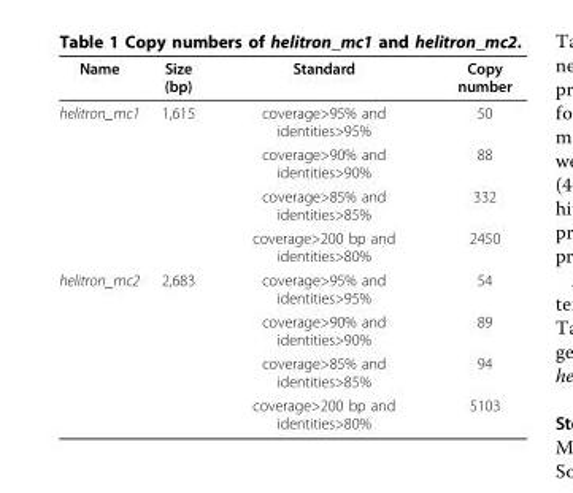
<table><thead><tr><td>Name</td><td>Size (bp)</td><td>Standard</td><td>Copy number</td></tr></thead><tbody><tr><td rowspan="4">helitron_mc1</td><td>1,615</td><td>coverage&gt;95% and identities&gt;95%</td><td>50</td></tr><tr><td></td><td>coverage&gt;90% and identities&gt;90%</td><td>88</td></tr><tr><td></td><td>coverage&gt;85% and identities&gt;85%</td><td>332</td></tr><tr><td></td><td>coverage&gt;200 bp and identities&gt;80%</td><td>2450</td></tr><tr><td rowspan="4">helitron_mc2</td><td>2,683</td><td>coverage&gt;95% and identities&gt;95%</td><td>54</td></tr><tr><td></td><td>coverage&gt;90% and identities&gt;90%</td><td>89</td></tr><tr><td></td><td>coverage&gt;85% and identities&gt;85%</td><td>94</td></tr><tr><td></td><td>coverage&gt;200 bp and identities&gt;80%</td><td>5103</td></tr></tbody></table>